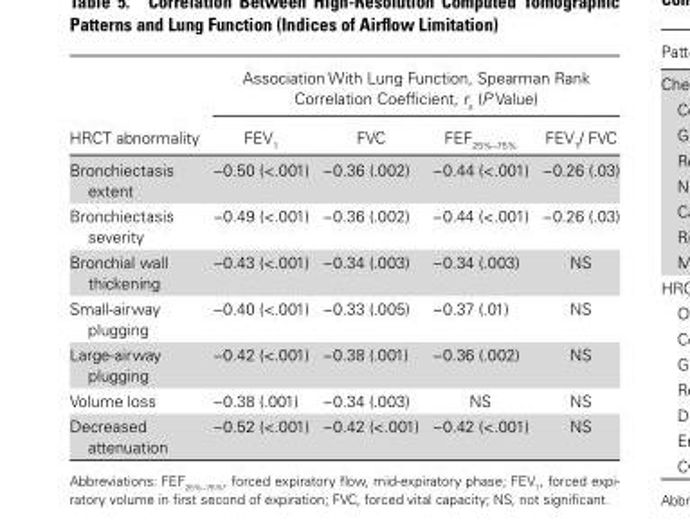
<table><thead><tr><td rowspan="2">HRCT abnormality</td><td colspan="4">Association With Lung Function, Spearman Rank Correlation Coefficient, r<sub>s</sub> (P Value)</td></tr><tr><td>FEV<sub>1</sub></td><td>FVC</td><td>FEF<sub>25%–75%</sub></td><td>FEV<sub>1</sub>/ FVC</td></tr></thead><tbody><tr><td>Bronchiectasis extent</td><td>−0.50 (&lt;.001)</td><td>−0.36 (.002)</td><td>−0.44 (&lt;.001)</td><td>−0.26 (.03)</td></tr><tr><td>Bronchiectasis severity</td><td>−0.49 (&lt;.001)</td><td>−0.36 (.002)</td><td>−0.44 (&lt;.001)</td><td>−0.26 (.03)</td></tr><tr><td>Bronchial wall thickening</td><td>−0.43 (&lt;.001)</td><td>−0.34 (.003)</td><td>−0.34 (.003)</td><td>NS</td></tr><tr><td>Small-airway plugging</td><td>−0.40 (&lt;.001)</td><td>−0.33 (.005)</td><td>−0.37 (.01)</td><td>NS</td></tr><tr><td>Large-airway plugging</td><td>−0.42 (&lt;.001)</td><td>−0.38 (.001)</td><td>−0.36 (.002)</td><td>NS</td></tr><tr><td>Volume loss</td><td>−0.38 (.001)</td><td>−0.34 (.003)</td><td>NS</td><td>NS</td></tr><tr><td>Decreased attenuation</td><td>−0.52 (&lt;.001)</td><td>−0.42 (&lt;.001)</td><td>−0.42 (&lt;.001)</td><td>NS</td></tr></tbody></table>